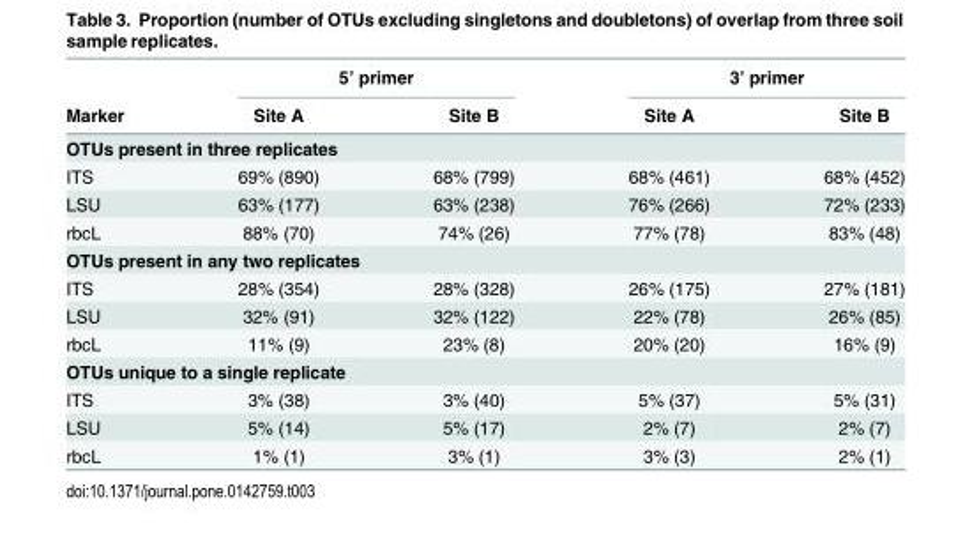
<table><thead><tr><td rowspan="2">Marker</td><td colspan="2">5’ primer</td><td colspan="2">3’ primer</td></tr><tr><td>Site A</td><td>Site B</td><td>Site A</td><td>Site B</td></tr></thead><tbody><tr><td colspan="5">OTUs present in three replicates</td></tr><tr><td>ITS</td><td>69% (890)</td><td>68% (799)</td><td>68% (461)</td><td>68% (452)</td></tr><tr><td>LSU</td><td>63% (177)</td><td>63% (238)</td><td>76% (266)</td><td>72% (233)</td></tr><tr><td>rbcL</td><td>88% (70)</td><td>74% (26)</td><td>77% (78)</td><td>83% (48)</td></tr><tr><td colspan="5">OTUs present in any two replicates</td></tr><tr><td>ITS</td><td>28% (354)</td><td>28% (328)</td><td>26% (175)</td><td>27% (181)</td></tr><tr><td>LSU</td><td>32% (91)</td><td>32% (122)</td><td>22% (78)</td><td>26% (85)</td></tr><tr><td>rbcL</td><td>11% (9)</td><td>23% (8)</td><td>20% (20)</td><td>16% (9)</td></tr><tr><td colspan="5">OTUs unique to a single replicate</td></tr><tr><td>ITS</td><td>3% (38)</td><td>3% (40)</td><td>5% (37)</td><td>5% (31)</td></tr><tr><td>LSU</td><td>5% (14)</td><td>5% (17)</td><td>2% (7)</td><td>2% (7)</td></tr><tr><td>rbcL</td><td>1% (1)</td><td>3% (1)</td><td>3% (3)</td><td>2% (1)</td></tr></tbody></table>